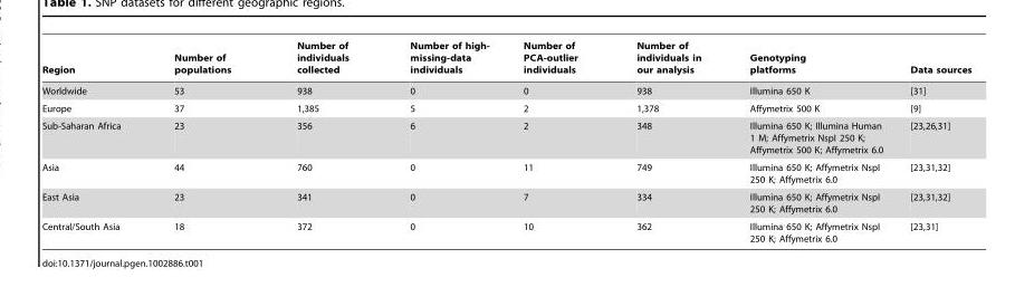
<table><thead><tr><td>Region</td><td>Number of populations</td><td>Number of individuals collected</td><td>Number of high- missing-data individuals</td><td>Number of PCA-outlier individuals</td><td>Number of individuals in our analysis</td><td>Genotyping platforms</td><td>Data sources</td></tr></thead><tbody><tr><td>Worldwide</td><td>53</td><td>938</td><td>0</td><td>0</td><td>938</td><td>Illumina 650 K</td><td>[31]</td></tr><tr><td>Europe</td><td>37</td><td>1,385</td><td>5</td><td>2</td><td>1,378</td><td>Affymetrix 500 K</td><td>[9]</td></tr><tr><td>Sub-Saharan Africa</td><td>23</td><td>356</td><td>6</td><td>2</td><td>348</td><td>Illumina 650 K; Illumina Human 1 M; Affymetrix NspI 250 K; Affymetrix 500 K; Affymetrix 6.0</td><td>[23,26,31]</td></tr><tr><td>Asia</td><td>44</td><td>760</td><td>0</td><td>11</td><td>749</td><td>Illumina 650 K; Affymetrix NspI 250 K; Affymetrix 6.0</td><td>[23,31,32]</td></tr><tr><td>East Asia</td><td>23</td><td>341</td><td>0</td><td>7</td><td>334</td><td>Illumina 650 K; Affymetrix NspI 250 K; Affymetrix 6.0</td><td>[23,31,32]</td></tr><tr><td>Central/South Asia</td><td>18</td><td>372</td><td>0</td><td>10</td><td>362</td><td>Illumina 650 K; Affymetrix NspI 250 K; Affymetrix 6.0</td><td>[23,31]</td></tr></tbody></table>